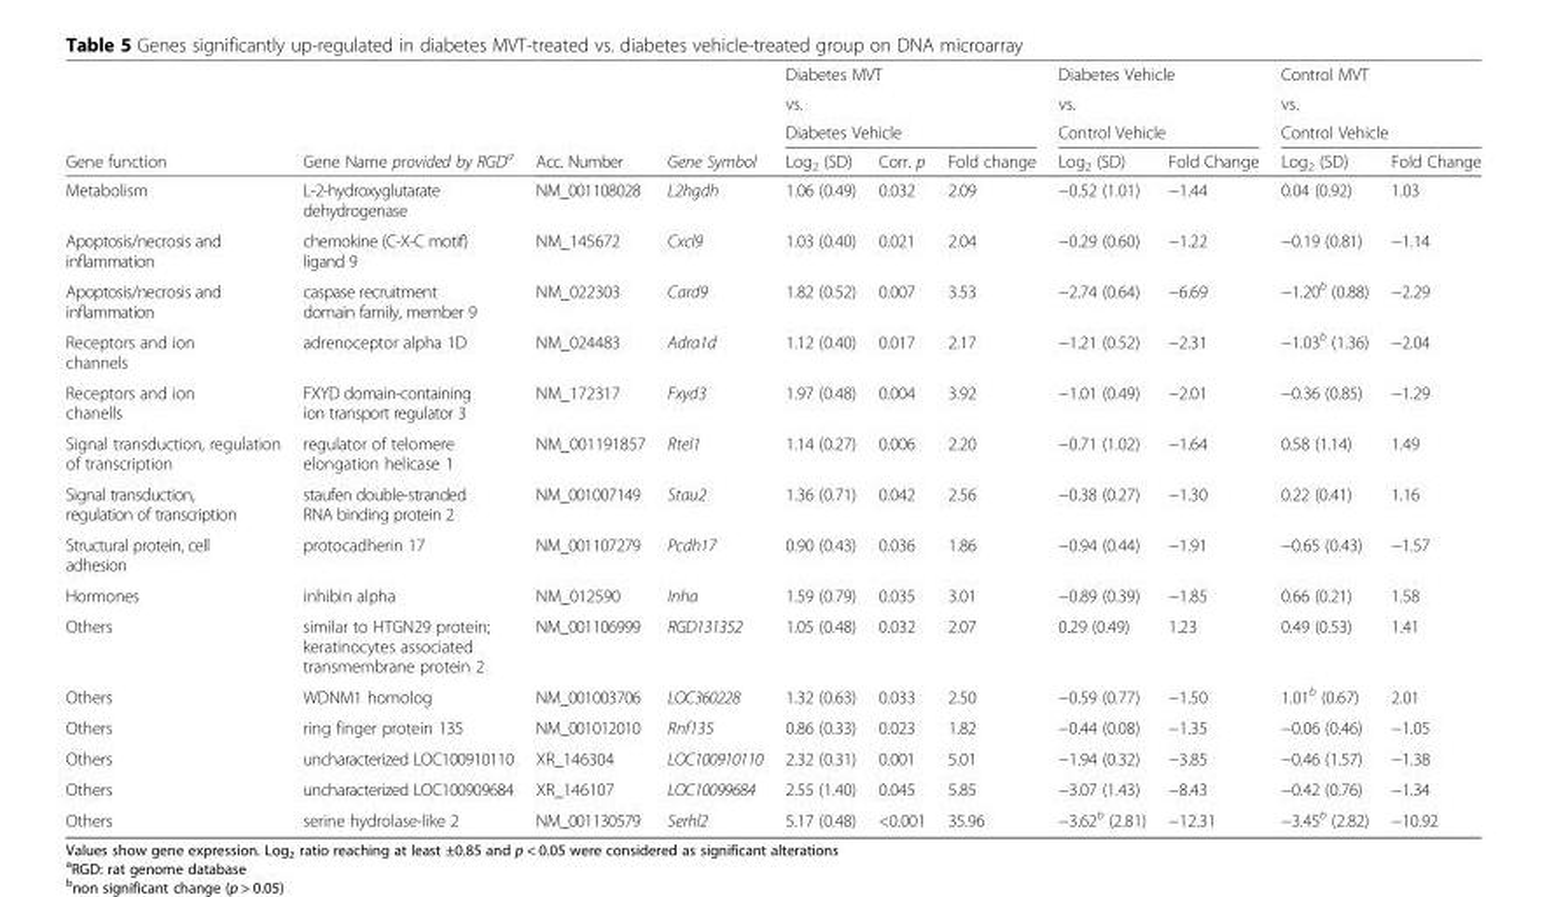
<table><thead><tr><td rowspan="4">Gene function</td><td rowspan="4">Gene Name provided by RGD<sup>a</sup></td><td rowspan="4">Acc. Number</td><td rowspan="4">Gene Symbol</td><td rowspan="3" colspan="3">Diabetes MVT vs. Diabetes Vehicle</td><td rowspan="3" colspan="2">Diabetes Vehicle vs. Control Vehicle</td><td rowspan="3" colspan="2">Control MVT vs. Control Vehicle</td></tr><tr></tr><tr></tr><tr><td>Log<sub>2</sub> (SD)</td><td>Corr. p</td><td>Fold change</td><td>Log<sub>2</sub> (SD)</td><td>Fold Change</td><td>Log<sub>2</sub> (SD)</td><td>Fold Change</td></tr></thead><tbody><tr><td>Metabolism</td><td>L-2-hydroxyglutarate dehydrogenase</td><td>NM_001108028</td><td>L2hgdh</td><td>1.06 (0.49)</td><td>0.032</td><td>2.09</td><td>−0.52 (1.01)</td><td>−1.44</td><td>0.04 (0.92)</td><td>1.03</td></tr><tr><td>Apoptosis/necrosis and inflammation</td><td>chemokine (C-X-C motif) ligand 9</td><td>NM_145672</td><td>Cxcl9</td><td>1.03 (0.40)</td><td>0.021</td><td>2.04</td><td>−0.29 (0.60)</td><td>−1.22</td><td>−0.19 (0.81)</td><td>−1.14</td></tr><tr><td>Apoptosis/necrosis and inflammation</td><td>caspase recruitment domain family, member 9</td><td>NM_022303</td><td>Card9</td><td>1.82 (0.52)</td><td>0.007</td><td>3.53</td><td>−2.74 (0.64)</td><td>−6.69</td><td>−1.20<sup>b</sup> (0.88)</td><td>−2.29</td></tr><tr><td>Receptors and ion channels</td><td>adrenoceptor alpha 1D</td><td>NM_024483</td><td>Adra1d</td><td>1.12 (0.40)</td><td>0.017</td><td>2.17</td><td>−1.21 (0.52)</td><td>−2.31</td><td>−1.03<sup>b</sup> (1.36)</td><td>−2.04</td></tr><tr><td>Receptors and ion chanells</td><td>FXYD domain-containing ion transport regulator 3</td><td>NM_172317</td><td>Fxyd3</td><td>1.97 (0.48)</td><td>0.004</td><td>3.92</td><td>−1.01 (0.49)</td><td>−2.01</td><td>−0.36 (0.85)</td><td>−1.29</td></tr><tr><td>Signal transduction, regulation of transcription</td><td>regulator of telomere elongation helicase 1</td><td>NM_001191857</td><td>Rtel1</td><td>1.14 (0.27)</td><td>0.006</td><td>2.20</td><td>−0.71 (1.02)</td><td>−1.64</td><td>0.58 (1.14)</td><td>1.49</td></tr><tr><td>Signal transduction, regulation of transcription</td><td>staufen double-stranded RNA binding protein 2</td><td>NM_001007149</td><td>Stau2</td><td>1.36 (0.71)</td><td>0.042</td><td>2.56</td><td>−0.38 (0.27)</td><td>−1.30</td><td>0.22 (0.41)</td><td>1.16</td></tr><tr><td>Structural protein, cell adhesion</td><td>protocadherin 17</td><td>NM_001107279</td><td>Pcdh17</td><td>0.90 (0.43)</td><td>0.036</td><td>1.86</td><td>−0.94 (0.44)</td><td>−1.91</td><td>−0.65 (0.43)</td><td>−1.57</td></tr><tr><td>Hormones</td><td>inhibin alpha</td><td>NM_012590</td><td>Inha</td><td>1.59 (0.79)</td><td>0.035</td><td>3.01</td><td>−0.89 (0.39)</td><td>−1.85</td><td>0.66 (0.21)</td><td>1.58</td></tr><tr><td>Others</td><td>similar to HTGN29 protein; keratinocytes associated transmembrane protein 2</td><td>NM_001106999</td><td>RGD131352</td><td>1.05 (0.48)</td><td>0.032</td><td>2.07</td><td>0.29 (0.49)</td><td>1.23</td><td>0.49 (0.53)</td><td>1.41</td></tr><tr><td>Others</td><td>WDNM1 homolog</td><td>NM_001003706</td><td>LOC360228</td><td>1.32 (0.63)</td><td>0.033</td><td>2.50</td><td>−0.59 (0.77)</td><td>−1.50</td><td>1.01<sup>b</sup> (0.67)</td><td>2.01</td></tr><tr><td>Others</td><td>ring finger protein 135</td><td>NM_001012010</td><td>Rnf135</td><td>0.86 (0.33)</td><td>0.023</td><td>1.82</td><td>−0.44 (0.08)</td><td>−1.35</td><td>−0.06 (0.46)</td><td>−1.05</td></tr><tr><td>Others</td><td>uncharacterized LOC100910110</td><td>XR_146304</td><td>LOC100910110</td><td>2.32 (0.31)</td><td>0.001</td><td>5.01</td><td>−1.94 (0.32)</td><td>−3.85</td><td>−0.46 (1.57)</td><td>−1.38</td></tr><tr><td>Others</td><td>uncharacterized LOC100909684</td><td>XR_146107</td><td>LOC10099684</td><td>2.55 (1.40)</td><td>0.045</td><td>5.85</td><td>−3.07 (1.43)</td><td>−8.43</td><td>−0.42 (0.76)</td><td>−1.34</td></tr><tr><td>Others</td><td>serine hydrolase-like 2</td><td>NM_001130579</td><td>Serhl2</td><td>5.17 (0.48)</td><td>&lt;0.001</td><td>35.96</td><td>−3.62<sup>b</sup> (2.81)</td><td>−12.31</td><td>−3.45<sup>b</sup> (2.82)</td><td>−10.92</td></tr></tbody></table>